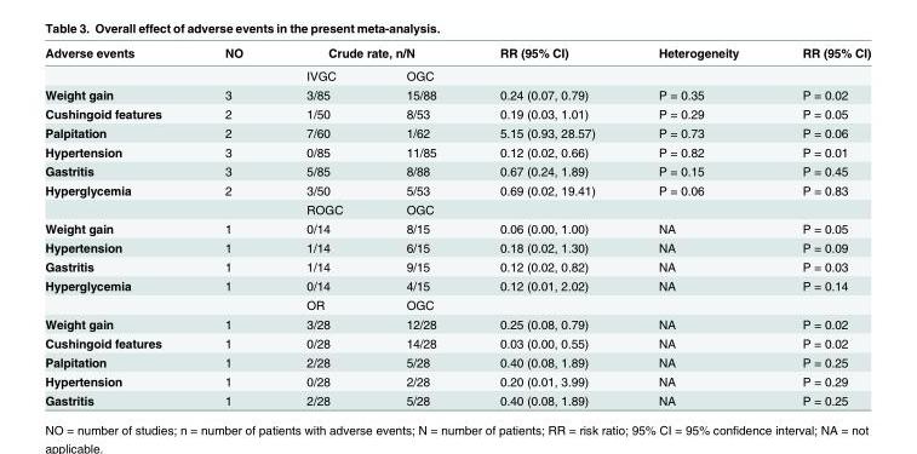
<table><thead><tr><td rowspan="2">Adverse events</td><td rowspan="2">NO</td><td colspan="2">Crude rate, n/N</td><td rowspan="2">RR (95% CI)</td><td rowspan="2">Heterogeneity</td><td rowspan="2">RR (95% CI)</td></tr><tr><td>IVGC</td><td>OGC</td></tr></thead><tbody><tr><td>Weight gain</td><td>3</td><td>3/85</td><td>15/88</td><td>0.24 (0.07, 0.79)</td><td>P = 0.35</td><td>P = 0.02</td></tr><tr><td>Cushingoid features</td><td>2</td><td>1/50</td><td>8/53</td><td>0.19 (0.03, 1.01)</td><td>P = 0.29</td><td>P = 0.05</td></tr><tr><td>Palpitation</td><td>2</td><td>7/60</td><td>1/62</td><td>5.15 (0.93, 28.57)</td><td>P = 0.73</td><td>P = 0.06</td></tr><tr><td>Hypertension</td><td>3</td><td>0/85</td><td>11/85</td><td>0.12 (0.02, 0.66)</td><td>P = 0.82</td><td>P = 0.01</td></tr><tr><td>Gastritis</td><td>3</td><td>5/85</td><td>8/88</td><td>0.67 (0.24, 1.89)</td><td>P = 0.15</td><td>P = 0.45</td></tr><tr><td rowspan="2">Hyperglycemia</td><td>2</td><td>3/50</td><td>5/53</td><td>0.69 (0.02, 19.41)</td><td>P = 0.06</td><td>P = 0.83</td></tr><tr><td></td><td>ROGC</td><td>OGC</td><td></td><td></td><td></td></tr><tr><td>Weight gain</td><td>1</td><td>0/14</td><td>8/15</td><td>0.06 (0.00, 1.00)</td><td>NA</td><td>P = 0.05</td></tr><tr><td>Hypertension</td><td>1</td><td>1/14</td><td>6/15</td><td>0.18 (0.02, 1.30)</td><td>NA</td><td>P = 0.09</td></tr><tr><td>Gastritis</td><td>1</td><td>1/14</td><td>9/15</td><td>0.12 (0.02, 0.82)</td><td>NA</td><td>P = 0.03</td></tr><tr><td rowspan="2">Hyperglycemia</td><td>1</td><td>0/14</td><td>4/15</td><td>0.12 (0.01, 2.02)</td><td>NA</td><td>P = 0.14</td></tr><tr><td></td><td>OR</td><td>OGC</td><td></td><td></td><td></td></tr><tr><td>Weight gain</td><td>1</td><td>3/28</td><td>12/28</td><td>0.25 (0.08, 0.79)</td><td>NA</td><td>P = 0.02</td></tr><tr><td>Cushingoid features</td><td>1</td><td>0/28</td><td>14/28</td><td>0.03 (0.00, 0.55)</td><td>NA</td><td>P = 0.02</td></tr><tr><td>Palpitation</td><td>1</td><td>2/28</td><td>5/28</td><td>0.40 (0.08, 1.89)</td><td>NA</td><td>P = 0.25</td></tr><tr><td>Hypertension</td><td>1</td><td>0/28</td><td>2/28</td><td>0.20 (0.01, 3.99)</td><td>NA</td><td>P = 0.29</td></tr><tr><td>Gastritis</td><td>1</td><td>2/28</td><td>5/28</td><td>0.40 (0.08, 1.89)</td><td>NA</td><td>P = 0.25</td></tr></tbody></table>